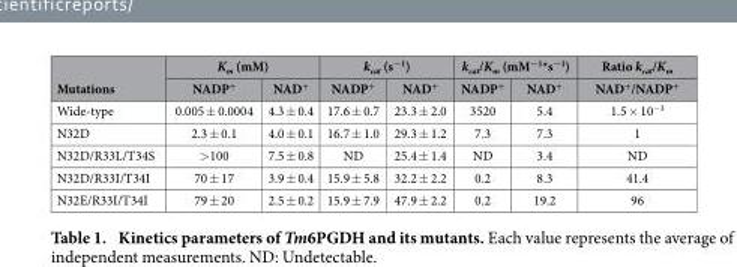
<table><thead><tr><td rowspan="2">Mutations</td><td colspan="2">K<sub>m</sub> (mM)</td><td colspan="2">k<sub>cat</sub> (s<sup>−1</sup>)</td><td colspan="2">k<sub>cat</sub>/K<sub>m</sub> (mM<sup>−1</sup>*s<sup>−1</sup>)</td><td rowspan="2">Ratio k<sub>cat</sub>/K<sub>m</sub> NAD<sup>+</sup>/NADP<sup>+</sup></td></tr><tr><td>NADP<sup>+</sup></td><td>NAD<sup>+</sup></td><td>NADP<sup>+</sup></td><td>NAD<sup>+</sup></td><td>NADP<sup>+</sup></td><td>NAD<sup>+</sup></td></tr></thead><tbody><tr><td>Wide-type</td><td>0.005 ± 0.0004</td><td>4.3 ± 0.4</td><td>17.6 ± 0.7</td><td>23.3 ± 2.0</td><td>3520</td><td>5.4</td><td>1.5 × 10<sup>−3</sup></td></tr><tr><td>N32D</td><td>2.3 ± 0.1</td><td>4.0 ± 0.1</td><td>16.7 ± 1.0</td><td>29.3 ± 1.2</td><td>7.3</td><td>7.3</td><td>1</td></tr><tr><td>N32D/R33L/T34S</td><td>&gt; 100</td><td>7.5 ± 0.8</td><td>ND</td><td>25.4 ± 1.4</td><td>ND</td><td>3.4</td><td>ND</td></tr><tr><td>N32D/R33I/T34I</td><td>70 ± 17</td><td>3.9 ± 0.4</td><td>15.9 ± 5.8</td><td>32.2 ± 2.2</td><td>0.2</td><td>8.3</td><td>41.4</td></tr><tr><td>N32E/R33I/T34I</td><td>79 ± 20</td><td>2.5 ± 0.2</td><td>15.9 ± 7.9</td><td>47.9 ± 2.2</td><td>0.2</td><td>19.2</td><td>96</td></tr></tbody></table>